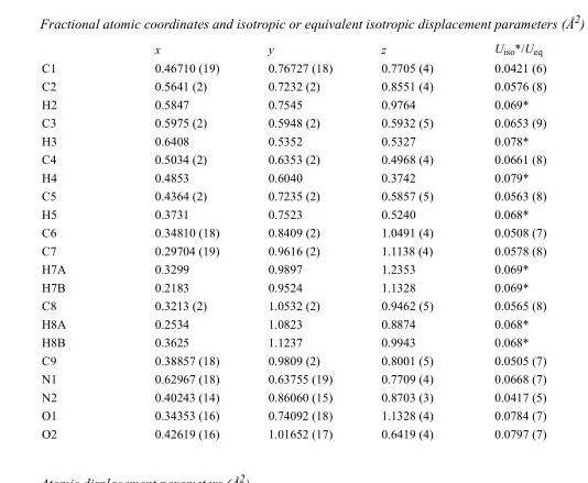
<table><thead><tr><td></td><td>x</td><td>y</td><td>z</td><td>U<sub>iso</sub>*/U<sub>eq</sub></td></tr></thead><tbody><tr><td>C1</td><td>0.46710 (19)</td><td>0.76727 (18)</td><td>0.7705 (4)</td><td>0.0421 (6)</td></tr><tr><td>C2</td><td>0.5641 (2)</td><td>0.7232 (2)</td><td>0.8551 (4)</td><td>0.0576 (8)</td></tr><tr><td>H2</td><td>0.5847</td><td>0.7545</td><td>0.9764</td><td>0.069*</td></tr><tr><td>C3</td><td>0.5975 (2)</td><td>0.5948 (2)</td><td>0.5932 (5)</td><td>0.0653 (9)</td></tr><tr><td>H3</td><td>0.6408</td><td>0.5352</td><td>0.5327</td><td>0.078*</td></tr><tr><td>C4</td><td>0.5034 (2)</td><td>0.6353 (2)</td><td>0.4968 (4)</td><td>0.0661 (8)</td></tr><tr><td>H4</td><td>0.4853</td><td>0.6040</td><td>0.3742</td><td>0.079*</td></tr><tr><td>C5</td><td>0.4364 (2)</td><td>0.7235 (2)</td><td>0.5857 (5)</td><td>0.0563 (8)</td></tr><tr><td>H5</td><td>0.3731</td><td>0.7523</td><td>0.5240</td><td>0.068*</td></tr><tr><td>C6</td><td>0.34810 (18)</td><td>0.8409 (2)</td><td>1.0491 (4)</td><td>0.0508 (7)</td></tr><tr><td>C7</td><td>0.29704 (19)</td><td>0.9616 (2)</td><td>1.1138 (4)</td><td>0.0578 (8)</td></tr><tr><td>H7A</td><td>0.3299</td><td>0.9897</td><td>1.2353</td><td>0.069*</td></tr><tr><td>H7B</td><td>0.2183</td><td>0.9524</td><td>1.1328</td><td>0.069*</td></tr><tr><td>C8</td><td>0.3213 (2)</td><td>1.0532 (2)</td><td>0.9462 (5)</td><td>0.0565 (8)</td></tr><tr><td>H8A</td><td>0.2534</td><td>1.0823</td><td>0.8874</td><td>0.068*</td></tr><tr><td>H8B</td><td>0.3625</td><td>1.1237</td><td>0.9943</td><td>0.068*</td></tr><tr><td>C9</td><td>0.38857 (18)</td><td>0.9809 (2)</td><td>0.8001 (5)</td><td>0.0505 (7)</td></tr><tr><td>N1</td><td>0.62967 (18)</td><td>0.63755 (19)</td><td>0.7709 (4)</td><td>0.0668 (7)</td></tr><tr><td>N2</td><td>0.40243 (14)</td><td>0.86060 (15)</td><td>0.8703 (3)</td><td>0.0417 (5)</td></tr><tr><td>O1</td><td>0.34353 (16)</td><td>0.74092 (18)</td><td>1.1328 (4)</td><td>0.0784 (7)</td></tr><tr><td>O2</td><td>0.42619 (16)</td><td>1.01652 (17)</td><td>0.6419 (4)</td><td>0.0797 (7)</td></tr></tbody></table>